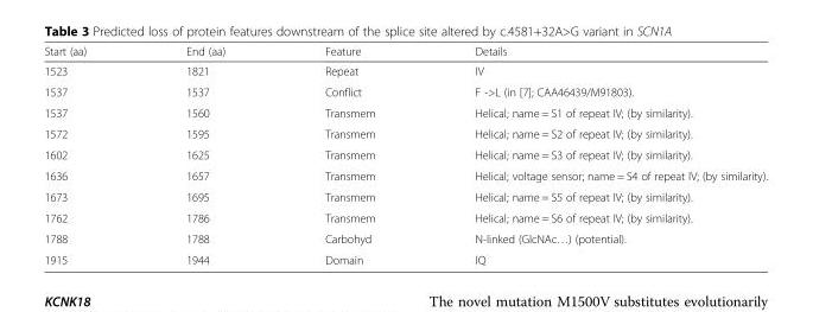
<table><thead><tr><td>Start (aa)</td><td>End (aa)</td><td>Feature</td><td>Details</td></tr></thead><tbody><tr><td>1523</td><td>1821</td><td>Repeat</td><td>IV</td></tr><tr><td>1537</td><td>1537</td><td>Conflict</td><td>F -&gt;L (in [7]; CAA46439/M91803).</td></tr><tr><td>1537</td><td>1560</td><td>Transmem</td><td>Helical; name = S1 of repeat IV; (by similarity).</td></tr><tr><td>1572</td><td>1595</td><td>Transmem</td><td>Helical; name = S2 of repeat IV; (by similarity).</td></tr><tr><td>1602</td><td>1625</td><td>Transmem</td><td>Helical; name = S3 of repeat IV; (by similarity).</td></tr><tr><td>1636</td><td>1657</td><td>Transmem</td><td>Helical; voltage sensor; name = S4 of repeat IV; (by similarity).</td></tr><tr><td>1673</td><td>1695</td><td>Transmem</td><td>Helical; name = S5 of repeat IV; (by similarity).</td></tr><tr><td>1762</td><td>1786</td><td>Transmem</td><td>Helical; name = S6 of repeat IV; (by similarity).</td></tr><tr><td>1788</td><td>1788</td><td>Carbohyd</td><td>N-linked (GlcNAc…) (potential).</td></tr><tr><td>1915</td><td>1944</td><td>Domain</td><td>IQ</td></tr></tbody></table>